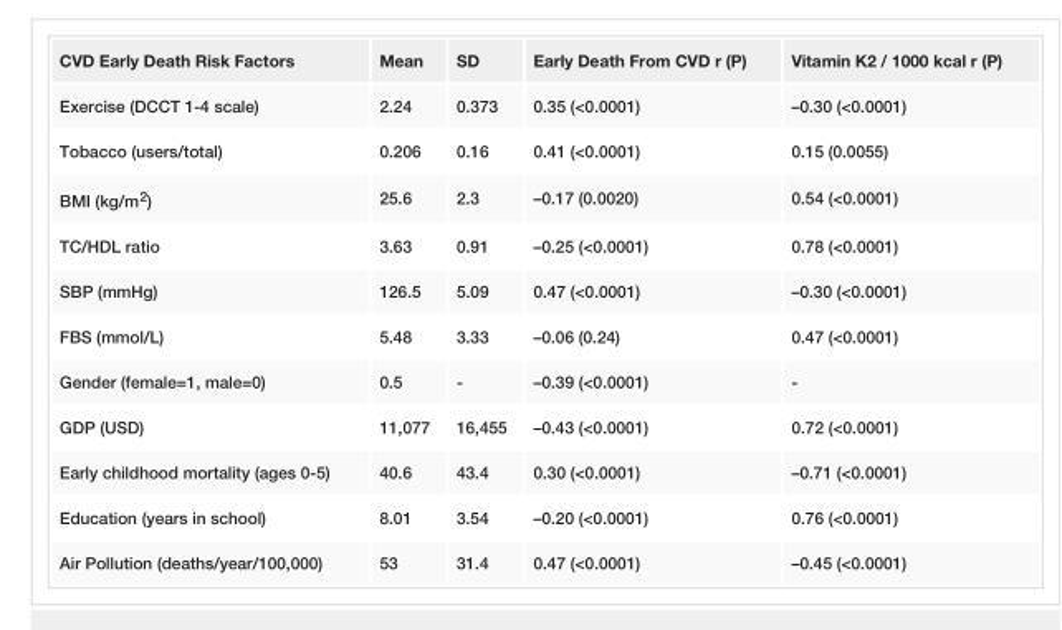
<table><tbody><tr><td>CVD Early Death Risk Factors</td><td>Mean</td><td>SD</td><td>Early Death From CVD r (P)</td><td>Vitamin K2 / 1000 kcal r (P)</td></tr><tr><td>Exercise (DCCT 1-4 scale)</td><td>2.24</td><td>0.373</td><td>0.35 (&lt;0.0001)</td><td>–0.30 (&lt;0.0001)</td></tr><tr><td>Tobacco (users/total)</td><td>0.206</td><td>0.16</td><td>0.41 (&lt;0.0001)</td><td>0.15 (0.0055)</td></tr><tr><td>BMI (kg/m<sup>2</sup>)</td><td>25.6</td><td>2.3</td><td>–0.17 (0.0020)</td><td>0.54 (&lt;0.0001)</td></tr><tr><td>TC/HDL ratio</td><td>3.63</td><td>0.91</td><td>–0.25 (&lt;0.0001)</td><td>0.78 (&lt;0.0001)</td></tr><tr><td>SBP (mmHg)</td><td>126.5</td><td>5.09</td><td>0.47 (&lt;0.0001)</td><td>–0.30 (&lt;0.0001)</td></tr><tr><td>FBS (mmol/L)</td><td>5.48</td><td>3.33</td><td>–0.06 (0.24)</td><td>0.47 (&lt;0.0001)</td></tr><tr><td>Gender (female=1, male=0)</td><td>0.5</td><td>-</td><td>–0.39 (&lt;0.0001)</td><td>-</td></tr><tr><td>GDP (USD)</td><td>11,077</td><td>16,455</td><td>–0.43 (&lt;0.0001)</td><td>0.72 (&lt;0.0001)</td></tr><tr><td>Early childhood mortality (ages 0-5)</td><td>40.6</td><td>43.4</td><td>0.30 (&lt;0.0001)</td><td>–0.71 (&lt;0.0001)</td></tr><tr><td>Education (years in school)</td><td>8.01</td><td>3.54</td><td>–0.20 (&lt;0.0001)</td><td>0.76 (&lt;0.0001)</td></tr><tr><td>Air Pollution (deaths/year/100,000)</td><td>53</td><td>31.4</td><td>0.47 (&lt;0.0001)</td><td>–0.45 (&lt;0.0001)</td></tr></tbody></table>